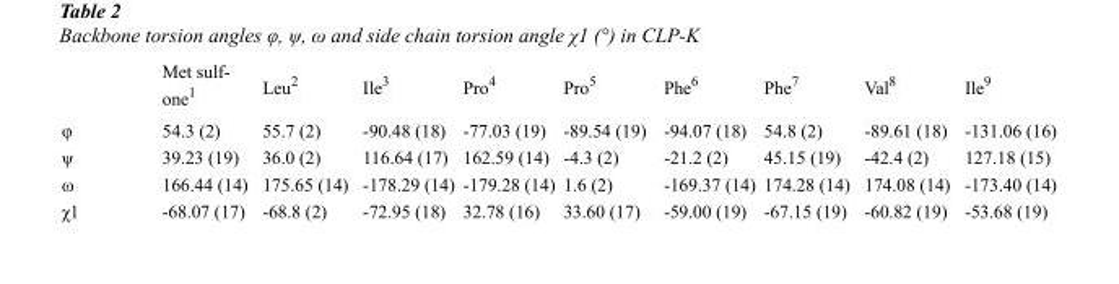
<table><thead><tr><td></td><td>Met sulf- one1</td><td>Leu<sup>2</sup></td><td>Ile<sup>3</sup></td><td>Pro<sup>4</sup></td><td>Pro<sup>5</sup></td><td>Phe<sup>6</sup></td><td>Phe<sup>7</sup></td><td>Val<sup>8</sup></td><td>Ile<sup>9</sup></td></tr></thead><tbody><tr><td>φ</td><td>54.3 (2)</td><td>55.7 (2)</td><td>-90.48 (18)</td><td>-77.03 (19)</td><td>-89.54 (19)</td><td>-94.07 (18)</td><td>54.8 (2)</td><td>-89.61 (18)</td><td>-131.06 (16)</td></tr><tr><td>ψ</td><td>39.23 (19)</td><td>36.0 (2)</td><td>116.64 (17)</td><td>162.59 (14)</td><td>-4.3 (2)</td><td>-21.2 (2)</td><td>45.15 (19)</td><td>-42.4 (2)</td><td>127.18 (15)</td></tr><tr><td>ω</td><td>166.44 (14)</td><td>175.65 (14)</td><td>-178.29 (14)</td><td>-179.28 (14)</td><td>1.6 (2)</td><td>-169.37 (14)</td><td>174.28 (14)</td><td>174.08 (14)</td><td>-173.40 (14)</td></tr><tr><td>χ1</td><td>-68.07 (17)</td><td>-68.8 (2)</td><td>-72.95 (18)</td><td>32.78 (16)</td><td>33.60 (17)</td><td>-59.00 (19)</td><td>-67.15 (19)</td><td>-60.82 (19)</td><td>-53.68 (19)</td></tr></tbody></table>